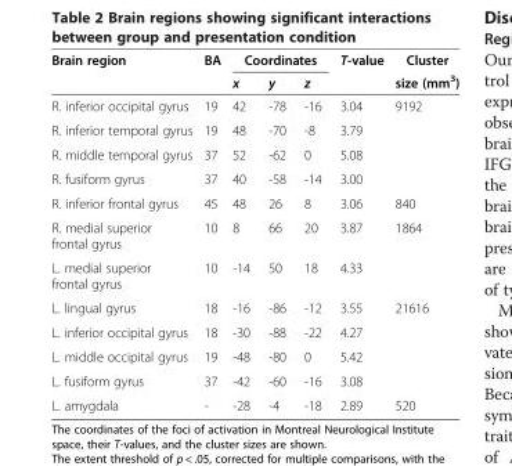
<table><thead><tr><td rowspan="2">Brain region</td><td rowspan="2">BA</td><td colspan="3">Coordinates</td><td rowspan="2">T-value</td><td rowspan="2">Cluster size (mm<sup>3</sup>)</td></tr><tr><td>x</td><td>y</td><td>z</td></tr></thead><tbody><tr><td>R. inferior occipital gyrus</td><td>19</td><td>42</td><td>-78</td><td>-16</td><td>3.04</td><td>9192</td></tr><tr><td>R. inferior temporal gyrus</td><td>19</td><td>48</td><td>-70</td><td>-8</td><td>3.79</td><td></td></tr><tr><td>R. middle temporal gyrus</td><td>37</td><td>52</td><td>-62</td><td>0</td><td>5.08</td><td></td></tr><tr><td>R. fusiform gyrus</td><td>37</td><td>40</td><td>-58</td><td>-14</td><td>3.00</td><td></td></tr><tr><td>R. inferior frontal gyrus</td><td>45</td><td>48</td><td>26</td><td>8</td><td>3.06</td><td>840</td></tr><tr><td>R. medial superior frontal gyrus</td><td>10</td><td>8</td><td>66</td><td>20</td><td>3.87</td><td>1864</td></tr><tr><td>L. medial superior frontal gyrus</td><td>10</td><td>-14</td><td>50</td><td>18</td><td>4.33</td><td></td></tr><tr><td>L. lingual gyrus</td><td>18</td><td>-16</td><td>-86</td><td>-12</td><td>3.55</td><td>21616</td></tr><tr><td>L. inferior occipital gyrus</td><td>18</td><td>-30</td><td>-88</td><td>-22</td><td>4.27</td><td></td></tr><tr><td>L. middle occipital gyrus</td><td>19</td><td>-48</td><td>-80</td><td>0</td><td>5.42</td><td></td></tr><tr><td>L. fusiform gyrus</td><td>37</td><td>-42</td><td>-60</td><td>-16</td><td>3.08</td><td></td></tr><tr><td>L. amygdala</td><td>-</td><td>-28</td><td>-4</td><td>-18</td><td>2.89</td><td>520</td></tr></tbody></table>